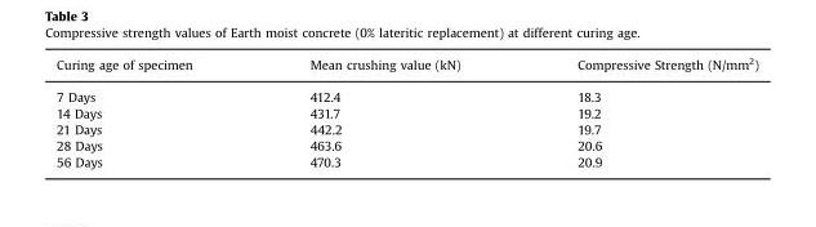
<table><thead><tr><td>Curing age of specimen</td><td>Mean crushing value (kN)</td><td>Compressive Strength (N/mm<sup>2</sup>)</td></tr></thead><tbody><tr><td>7 Days</td><td>412.4</td><td>18.3</td></tr><tr><td>14 Days</td><td>431.7</td><td>19.2</td></tr><tr><td>21 Days</td><td>442.2</td><td>19.7</td></tr><tr><td>28 Days</td><td>463.6</td><td>20.6</td></tr><tr><td>56 Days</td><td>470.3</td><td>20.9</td></tr></tbody></table>